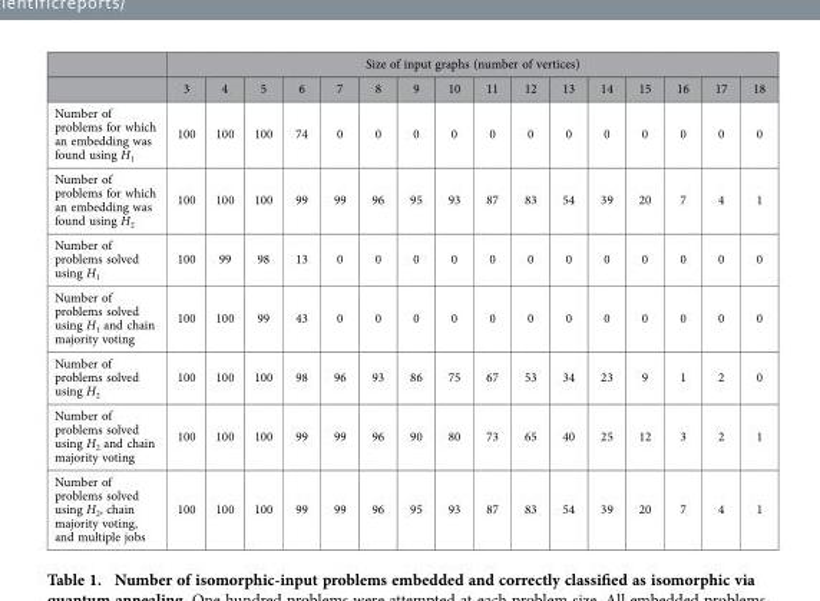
<table><thead><tr><td rowspan="2"></td><td colspan="16">Size of input graphs (number of vertices)</td></tr><tr><td>3</td><td>4</td><td>5</td><td>6</td><td>7</td><td>8</td><td>9</td><td>10</td><td>11</td><td>12</td><td>13</td><td>14</td><td>15</td><td>16</td><td>17</td><td>18</td></tr></thead><tbody><tr><td>Number of problems for which an embedding was found using H<sub>1</sub></td><td>100</td><td>100</td><td>100</td><td>74</td><td>0</td><td>0</td><td>0</td><td>0</td><td>0</td><td>0</td><td>0</td><td>0</td><td>0</td><td>0</td><td>0</td><td>0</td></tr><tr><td>Number of problems for which an embedding was found using H<sub>2</sub></td><td>100</td><td>100</td><td>100</td><td>99</td><td>99</td><td>96</td><td>95</td><td>93</td><td>87</td><td>83</td><td>54</td><td>39</td><td>20</td><td>7</td><td>4</td><td>1</td></tr><tr><td>Number of problems solved using H<sub>1</sub></td><td>100</td><td>99</td><td>98</td><td>13</td><td>0</td><td>0</td><td>0</td><td>0</td><td>0</td><td>0</td><td>0</td><td>0</td><td>0</td><td>0</td><td>0</td><td>0</td></tr><tr><td>Number of problems solved using H<sub>1</sub> and chain majority voting</td><td>100</td><td>100</td><td>99</td><td>43</td><td>0</td><td>0</td><td>0</td><td>0</td><td>0</td><td>0</td><td>0</td><td>0</td><td>0</td><td>0</td><td>0</td><td>0</td></tr><tr><td>Number of problems solved using H<sub>2</sub></td><td>100</td><td>100</td><td>100</td><td>98</td><td>96</td><td>93</td><td>86</td><td>75</td><td>67</td><td>53</td><td>34</td><td>23</td><td>9</td><td>1</td><td>2</td><td>0</td></tr><tr><td>Number of problems solved using H<sub>2</sub> and chain majority voting</td><td>100</td><td>100</td><td>100</td><td>99</td><td>99</td><td>96</td><td>90</td><td>80</td><td>73</td><td>65</td><td>40</td><td>25</td><td>12</td><td>3</td><td>2</td><td>1</td></tr><tr><td>Number of problems solved using H<sub>2</sub>, chain majority voting, and multiple jobs</td><td>100</td><td>100</td><td>100</td><td>99</td><td>99</td><td>96</td><td>95</td><td>93</td><td>87</td><td>83</td><td>54</td><td>39</td><td>20</td><td>7</td><td>4</td><td>1</td></tr></tbody></table>